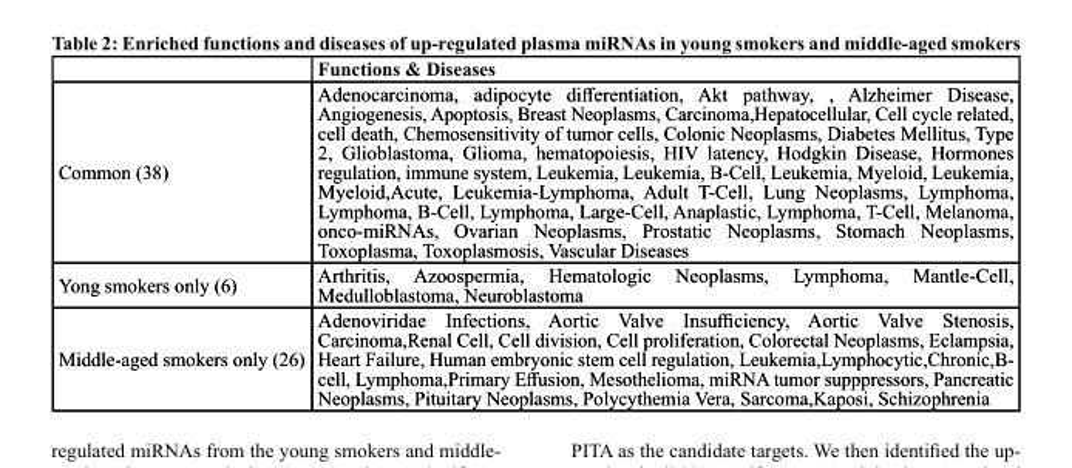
<table><thead><tr><td></td><td>Functions &amp; Diseases</td></tr></thead><tbody><tr><td>Common (38)</td><td>Adenocarcinoma, adipocyte differentiation, Akt pathway, , Alzheimer Disease, Angiogenesis, Apoptosis, Breast Neoplasms, Carcinoma,Hepatocellular, Cell cycle related, cell death, Chemosensitivity of tumor cells, Colonic Neoplasms, Diabetes Mellitus, Type 2, Glioblastoma, Glioma, hematopoiesis, HIV latency, Hodgkin Disease, Hormones regulation, immune system, Leukemia, Leukemia, B-Cell, Leukemia, Myeloid, Leukemia, Myeloid,Acute, Leukemia-Lymphoma, Adult T-Cell, Lung Neoplasms, Lymphoma, Lymphoma, B-Cell, Lymphoma, Large-Cell, Anaplastic, Lymphoma, T-Cell, Melanoma, onco-miRNAs, Ovarian Neoplasms, Prostatic Neoplasms, Stomach Neoplasms, Toxoplasma, Toxoplasmosis, Vascular Diseases</td></tr><tr><td>Yong smokers only (6)</td><td>Arthritis, Azoospermia, Hematologic Neoplasms, Lymphoma, Mantle-Cell, Medulloblastoma, Neuroblastoma</td></tr><tr><td>Middle-aged smokers only (26)</td><td>Adenoviridae Infections, Aortic Valve Insufficiency, Aortic Valve Stenosis, Carcinoma,Renal Cell, Cell division, Cell proliferation, Colorectal Neoplasms, Eclampsia, Heart Failure, Human embryonic stem cell regulation, Leukemia,Lymphocytic,Chronic,B- cell, Lymphoma,Primary Effusion, Mesothelioma, miRNA tumor supppressors, Pancreatic Neoplasms, Pituitary Neoplasms, Polycythemia Vera, Sarcoma,Kaposi, Schizophrenia</td></tr></tbody></table>